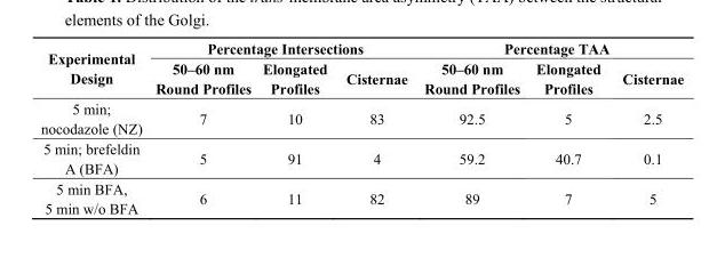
<table><thead><tr><td rowspan="2">Experimental Design</td><td colspan="3">Percentage Intersections</td><td colspan="3">Percentage TAA</td></tr><tr><td>50–60 nm Round Profiles</td><td>Elongated Profiles</td><td>Cisternae</td><td>50–60 nm Round Profiles</td><td>Elongated Profiles</td><td>Cisternae</td></tr></thead><tbody><tr><td>5 min; nocodazole (NZ)</td><td>7</td><td>10</td><td>83</td><td>92.5</td><td>5</td><td>2.5</td></tr><tr><td>5 min; brefeldin A (BFA)</td><td>5</td><td>91</td><td>4</td><td>59.2</td><td>40.7</td><td>0.1</td></tr><tr><td>5 min BFA, 5 min w/o BFA</td><td>6</td><td>11</td><td>82</td><td>89</td><td>7</td><td>5</td></tr></tbody></table>